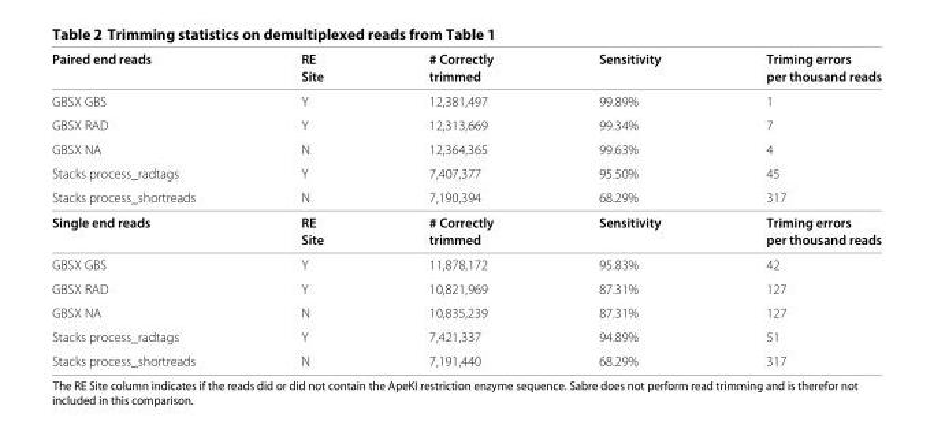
<table><thead><tr><td rowspan="2">Paired end reads</td><td rowspan="2">RE Site</td><td rowspan="2"># Correctly trimmed</td><td rowspan="2">Sensitivity</td><td rowspan="2">Triming errors per thousand reads</td></tr><tr></tr></thead><tbody><tr><td>GBSX GBS</td><td>Y</td><td>12,381,497</td><td>99.89%</td><td>1</td></tr><tr><td>GBSX RAD</td><td>Y</td><td>12,313,669</td><td>99.34%</td><td>7</td></tr><tr><td>GBSX NA</td><td>N</td><td>12,364,365</td><td>99.63%</td><td>4</td></tr><tr><td>Stacks process_radtags</td><td>Y</td><td>7,407,377</td><td>95.50%</td><td>45</td></tr><tr><td>Stacks process_shortreads</td><td>N</td><td>7,190,394</td><td>68.29%</td><td>317</td></tr><tr><td rowspan="2">Single end reads</td><td>RE</td><td># Correctly</td><td>Sensitivity</td><td>Triming errors</td></tr><tr><td>Site</td><td>trimmed</td><td></td><td>per thousand reads</td></tr><tr><td>GBSX GBS</td><td>Y</td><td>11,878,172</td><td>95.83%</td><td>42</td></tr><tr><td>GBSX RAD</td><td>Y</td><td>10,821,969</td><td>87.31%</td><td>127</td></tr><tr><td>GBSX NA</td><td>N</td><td>10,835,239</td><td>87.31%</td><td>127</td></tr><tr><td>Stacks process_radtags</td><td>Y</td><td>7,421,337</td><td>94.89%</td><td>51</td></tr><tr><td>Stacks process_shortreads</td><td>N</td><td>7,191,440</td><td>68.29%</td><td>317</td></tr></tbody></table>